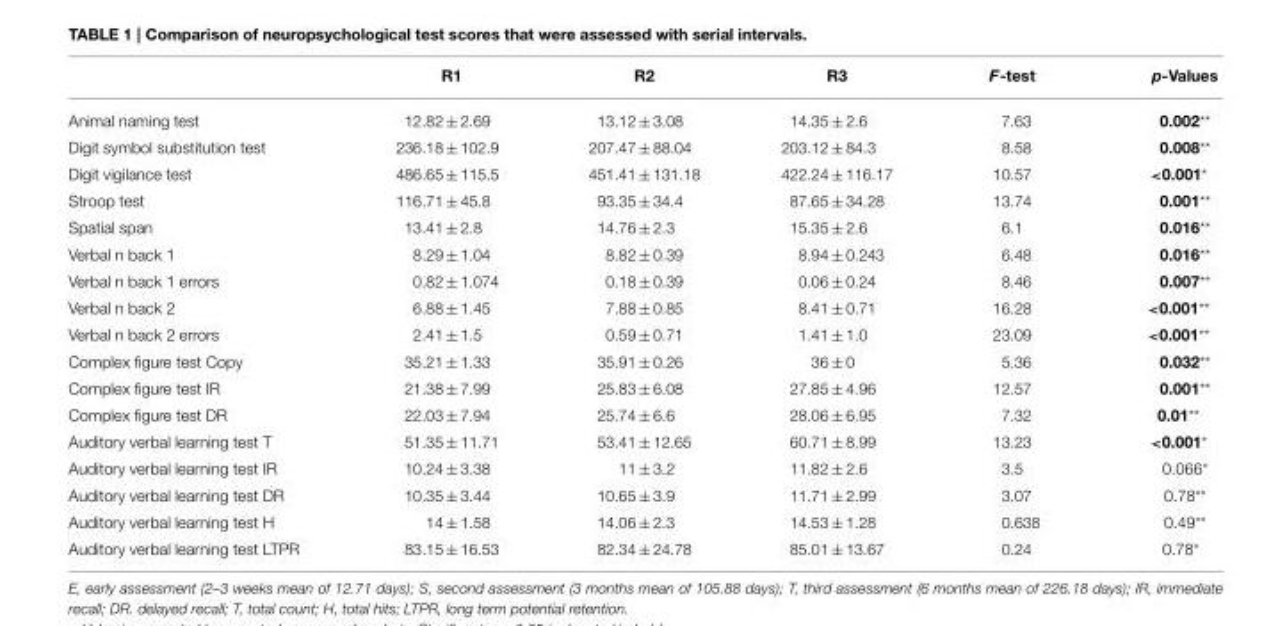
<table><thead><tr><td></td><td>R1</td><td>R2</td><td>R3</td><td>F-test</td><td>p-Values</td></tr></thead><tbody><tr><td>Animal naming test</td><td>12.82 ± 2.69</td><td>13.12 ± 3.08</td><td>14.35 ± 2.6</td><td>7.63</td><td>0.002**</td></tr><tr><td>Digit symbol substitution test</td><td>236.18 ± 102.9</td><td>207.47 ± 88.04</td><td>203.12 ± 84.3</td><td>8.58</td><td>0.008**</td></tr><tr><td>Digit vigilance test</td><td>486.65 ± 115.5</td><td>451.41 ± 131.18</td><td>422.24 ± 116.17</td><td>10.57</td><td>&lt;0.001*</td></tr><tr><td>Stroop test</td><td>116.71 ± 45.8</td><td>93.35 ± 34.4</td><td>87.65 ± 34.28</td><td>13.74</td><td>0.001**</td></tr><tr><td>Spatial span</td><td>13.41 ± 2.8</td><td>14.76 ± 2.3</td><td>15.35 ± 2.6</td><td>6.1</td><td>0.016**</td></tr><tr><td>Verbal n back 1</td><td>8.29 ± 1.04</td><td>8.82 ± 0.39</td><td>8.94 ± 0.243</td><td>6.48</td><td>0.016**</td></tr><tr><td>Verbal n back 1 errors</td><td>0.82 ± 1.074</td><td>0.18 ± 0.39</td><td>0.06 ± 0.24</td><td>8.46</td><td>0.007**</td></tr><tr><td>Verbal n back 2</td><td>6.88 ± 1.45</td><td>7.88 ± 0.85</td><td>8.41 ± 0.71</td><td>16.28</td><td>&lt;0.001**</td></tr><tr><td>Verbal n back 2 errors</td><td>2.41 ± 1.5</td><td>0.59 ± 0.71</td><td>1.41 ± 1.0</td><td>23.09</td><td>&lt;0.001**</td></tr><tr><td>Complex figure test Copy</td><td>35.21 ± 1.33</td><td>35.91 ± 0.26</td><td>36 ± 0</td><td>5.36</td><td>0.032**</td></tr><tr><td>Complex figure test IR</td><td>21.38 ± 7.99</td><td>25.83 ± 6.08</td><td>27.85 ± 4.96</td><td>12.57</td><td>0.001**</td></tr><tr><td>Complex figure test DR</td><td>22.03 ± 7.94</td><td>25.74 ± 6.6</td><td>28.06 ± 6.95</td><td>7.32</td><td>0.01**</td></tr><tr><td>Auditory verbal learning test T</td><td>51.35 ± 11.71</td><td>53.41 ± 12.65</td><td>60.71 ± 8.99</td><td>13.23</td><td>&lt;0.001*</td></tr><tr><td>Auditory verbal learning test IR</td><td>10.24 ± 3.38</td><td>11 ± 3.2</td><td>11.82 ± 2.6</td><td>3.5</td><td>0.066*</td></tr><tr><td>Auditory verbal learning test DR</td><td>10.35 ± 3.44</td><td>10.65 ± 3.9</td><td>11.71 ± 2.99</td><td>3.07</td><td>0.78**</td></tr><tr><td>Auditory verbal learning test H</td><td>14 ± 1.58</td><td>14.06 ± 2.3</td><td>14.53 ± 1.28</td><td>0.638</td><td>0.49**</td></tr><tr><td>Auditory verbal learning test LTPR</td><td>83.15 ± 16.53</td><td>82.34 ± 24.78</td><td>85.01 ± 13.67</td><td>0.24</td><td>0.78*</td></tr></tbody></table>